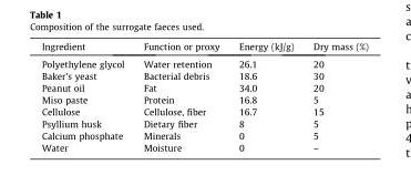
<table><thead><tr><td>Ingredient</td><td>Function or proxy</td><td>Energy (kJ/g)</td><td>Dry mass (%)</td></tr></thead><tbody><tr><td>Polyethylene glycol</td><td>Water retention</td><td>26.1</td><td>20</td></tr><tr><td>Baker’s yeast</td><td>Bacterial debris</td><td>18.6</td><td>30</td></tr><tr><td>Peanut oil</td><td>Fat</td><td>34.0</td><td>20</td></tr><tr><td>Miso paste</td><td>Protein</td><td>16.8</td><td>5</td></tr><tr><td>Cellulose</td><td>Cellulose, fiber</td><td>16.7</td><td>15</td></tr><tr><td>Psyllium husk</td><td>Dietary fiber</td><td>8</td><td>5</td></tr><tr><td>Calcium phosphate</td><td>Minerals</td><td>0</td><td>5</td></tr><tr><td>Water</td><td>Moisture</td><td>0</td><td>–</td></tr></tbody></table>